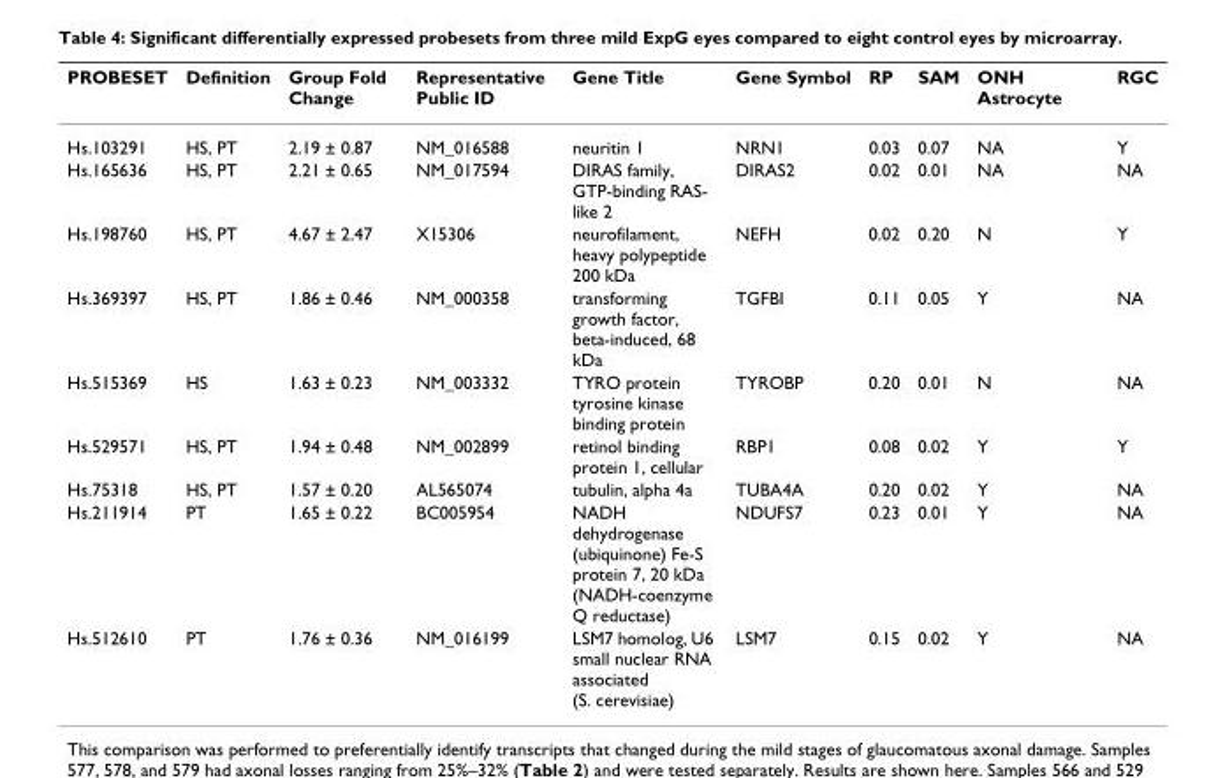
<table><thead><tr><td>PROBESET</td><td>Definition</td><td>Group Fold Change</td><td>Representative Public ID</td><td>Gene Title</td><td>Gene Symbol</td><td>RP</td><td>SAM</td><td>ONH Astrocyte</td><td>RGC</td></tr></thead><tbody><tr><td>Hs.103291</td><td>HS, PT</td><td>2.19 ± 0.87</td><td>NM_016588</td><td>neuritin 1</td><td>NRN1</td><td>0.03</td><td>0.07</td><td>NA</td><td>Y</td></tr><tr><td>Hs.165636</td><td>HS, PT</td><td>2.21 ± 0.65</td><td>NM_017594</td><td>DIRAS family, GTP-binding RAS- like 2</td><td>DIRAS2</td><td>0.02</td><td>0.01</td><td>NA</td><td>NA</td></tr><tr><td>Hs.198760</td><td>HS, PT</td><td>4.67 ± 2.47</td><td>X15306</td><td>neurofilament, heavy polypeptide 200 kDa</td><td>NEFH</td><td>0.02</td><td>0.20</td><td>N</td><td>Y</td></tr><tr><td>Hs.369397</td><td>HS, PT</td><td>1.86 ± 0.46</td><td>NM_000358</td><td>transforming growth factor, beta-induced, 68 kDa</td><td>TGFBI</td><td>0.11</td><td>0.05</td><td>Y</td><td>NA</td></tr><tr><td>Hs.515369</td><td>HS</td><td>1.63 ± 0.23</td><td>NM_003332</td><td>TYRO protein tyrosine kinase binding protein</td><td>TYROBP</td><td>0.20</td><td>0.01</td><td>N</td><td>NA</td></tr><tr><td>Hs.529571</td><td>HS, PT</td><td>1.94 ± 0.48</td><td>NM_002899</td><td>retinol binding protein 1, cellular</td><td>RBP1</td><td>0.08</td><td>0.02</td><td>Y</td><td>Y</td></tr><tr><td>Hs.75318</td><td>HS, PT</td><td>1.57 ± 0.20</td><td>AL565074</td><td>tubulin, alpha 4a</td><td>TUBA4A</td><td>0.20</td><td>0.02</td><td>Y</td><td>NA</td></tr><tr><td>Hs.211914</td><td>PT</td><td>1.65 ± 0.22</td><td>BC005954</td><td>NADH dehydrogenase (ubiquinone) Fe-S protein 7, 20 kDa (NADH-coenzyme Q reductase)</td><td>NDUFS7</td><td>0.23</td><td>0.01</td><td>Y</td><td>NA</td></tr><tr><td>Hs.512610</td><td>PT</td><td>1.76 ± 0.36</td><td>NM_016199</td><td>LSM7 homolog, U6 small nuclear RNA associated (S. cerevisiae)</td><td>LSM7</td><td>0.15</td><td>0.02</td><td>Y</td><td>NA</td></tr></tbody></table>